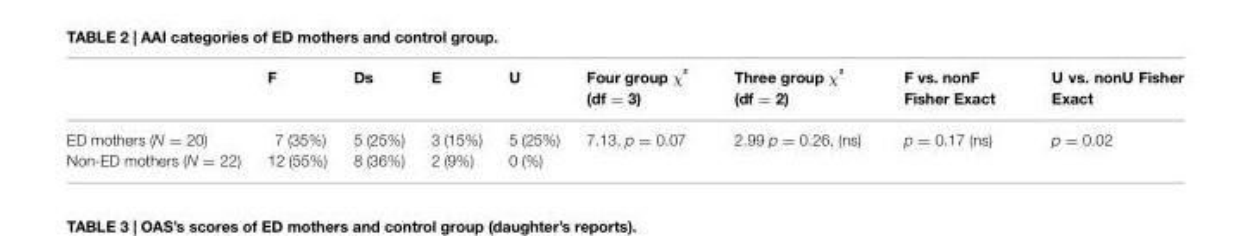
<table><thead><tr><td></td><td>F</td><td>Ds</td><td>E</td><td>U</td><td>Four group χ² (df = 3)</td><td>Three group χ² (df = 2)</td><td>F vs. nonF Fisher Exact</td><td>U vs. nonU Fisher Exact</td></tr></thead><tbody><tr><td>ED mothers (N = 20)</td><td>7 (35%)</td><td>5 (25%)</td><td>3 (15%)</td><td>5 (25%)</td><td>7.13, p = 0.07</td><td>2.99 p = 0.26, (ns)</td><td>p = 0.17 (ns)</td><td>p = 0.02</td></tr><tr><td>Non-ED mothers (N = 22)</td><td>12 (55%)</td><td>8 (36%)</td><td>2 (9%)</td><td>0 (%)</td><td></td><td></td><td></td><td></td></tr></tbody></table>